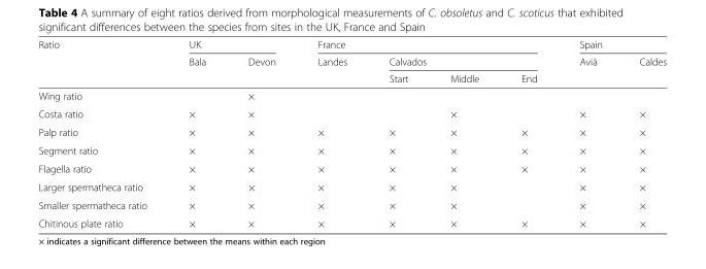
<table><thead><tr><td rowspan="3">Ratio</td><td colspan="2">UK</td><td colspan="4">France</td><td colspan="2">Spain</td></tr><tr><td rowspan="2">Bala</td><td rowspan="2">Devon</td><td rowspan="2">Landes</td><td colspan="3">Calvados</td><td rowspan="2">Avià</td><td rowspan="2">Caldes</td></tr><tr><td>Start</td><td>Middle</td><td>End</td></tr></thead><tbody><tr><td>Wing ratio</td><td></td><td>×</td><td></td><td></td><td></td><td></td><td></td><td></td></tr><tr><td>Costa ratio</td><td>×</td><td>×</td><td></td><td></td><td>×</td><td></td><td>×</td><td>×</td></tr><tr><td>Palp ratio</td><td>×</td><td>×</td><td>×</td><td>×</td><td>×</td><td>×</td><td>×</td><td>×</td></tr><tr><td>Segment ratio</td><td>×</td><td>×</td><td>×</td><td>×</td><td>×</td><td>×</td><td>×</td><td>×</td></tr><tr><td>Flagella ratio</td><td>×</td><td>×</td><td>×</td><td>×</td><td>×</td><td>×</td><td>×</td><td>×</td></tr><tr><td>Larger spermatheca ratio</td><td>×</td><td>×</td><td>×</td><td>×</td><td>×</td><td></td><td>×</td><td>×</td></tr><tr><td>Smaller spermatheca ratio</td><td>×</td><td>×</td><td>×</td><td>×</td><td>×</td><td></td><td>×</td><td>×</td></tr><tr><td>Chitinous plate ratio</td><td>×</td><td>×</td><td>×</td><td>×</td><td>×</td><td>×</td><td>×</td><td>×</td></tr></tbody></table>